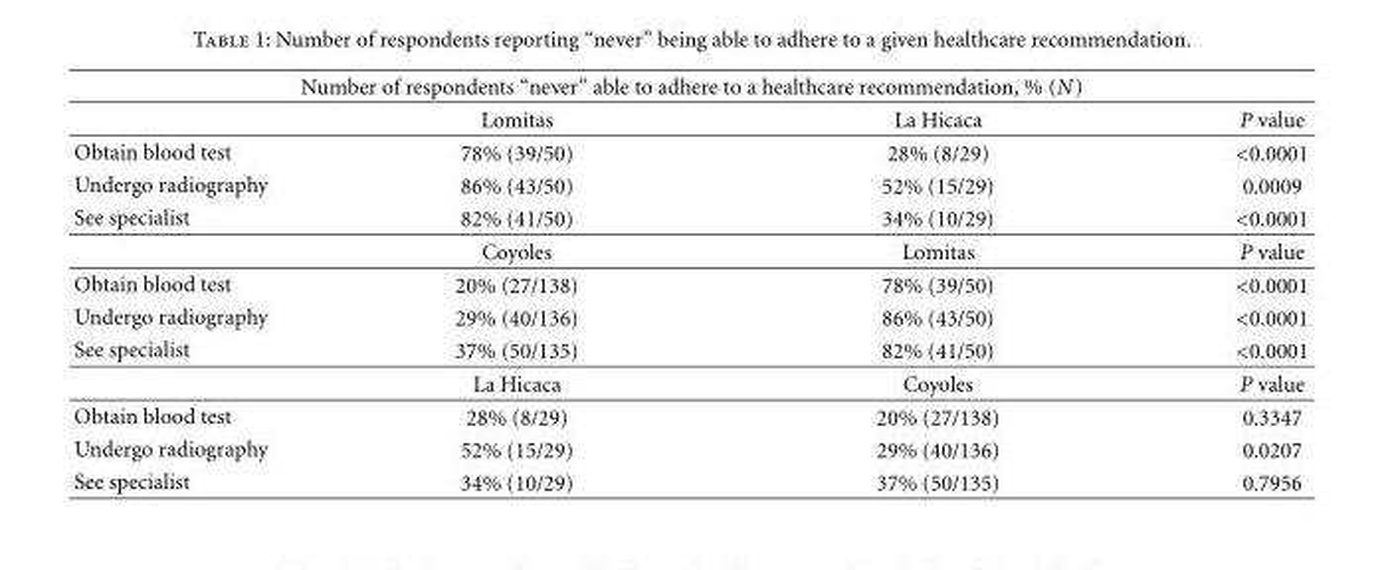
<table><thead><tr><td colspan="4">Number of respondents “never” able to adhere to a healthcare recommendation, % (N)</td></tr><tr><td></td><td>Lomitas</td><td>La Hicaca</td><td>P value</td></tr></thead><tbody><tr><td>Obtain blood test</td><td>78% (39/50)</td><td>28% (8/29)</td><td>&lt;0.0001</td></tr><tr><td>Undergo radiography</td><td>86% (43/50)</td><td>52% (15/29)</td><td>0.0009</td></tr><tr><td rowspan="2">See specialist</td><td>82% (41/50)</td><td>34% (10/29)</td><td>&lt;0.0001</td></tr><tr><td>Coyoles</td><td>Lomitas</td><td>P value</td></tr><tr><td>Obtain blood test</td><td>20% (27/138)</td><td>78% (39/50)</td><td>&lt;0.0001</td></tr><tr><td>Undergo radiography</td><td>29% (40/136)</td><td>86% (43/50)</td><td>&lt;0.0001</td></tr><tr><td rowspan="2">See specialist</td><td>37% (50/135)</td><td>82% (41/50)</td><td>&lt;0.0001</td></tr><tr><td>La Hicaca</td><td>Coyoles</td><td>P value</td></tr><tr><td>Obtain blood test</td><td>28% (8/29)</td><td>20% (27/138)</td><td>0.3347</td></tr><tr><td>Undergo radiography</td><td>52% (15/29)</td><td>29% (40/136)</td><td>0.0207</td></tr><tr><td>See specialist</td><td>34% (10/29)</td><td>37% (50/135)</td><td>0.7956</td></tr></tbody></table>